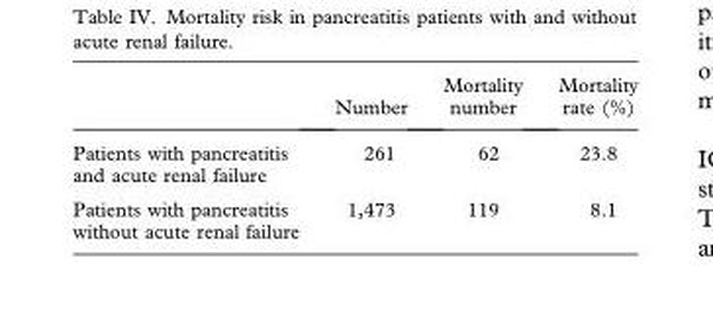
<table><thead><tr><td></td><td>Number</td><td>Mortality number</td><td>Mortality rate (%)</td></tr></thead><tbody><tr><td>Patients with pancreatitis and acute renal failure</td><td>261</td><td>62</td><td>23.8</td></tr><tr><td>Patients with pancreatitis without acute renal failure</td><td>1,473</td><td>119</td><td>8.1</td></tr></tbody></table>